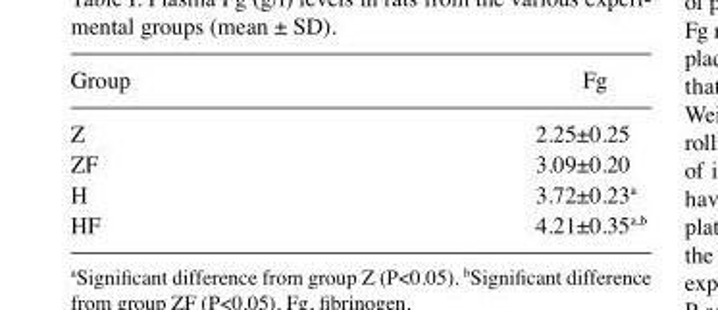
<table><thead><tr><td>Group</td><td>Fg</td></tr></thead><tbody><tr><td>Z</td><td>2.25±0.25</td></tr><tr><td>ZF</td><td>3.09±0.20</td></tr><tr><td>H</td><td>3.72±0.23<sup>a</sup></td></tr><tr><td>HF</td><td>4.21±0.35<sup>a,b</sup></td></tr></tbody></table>